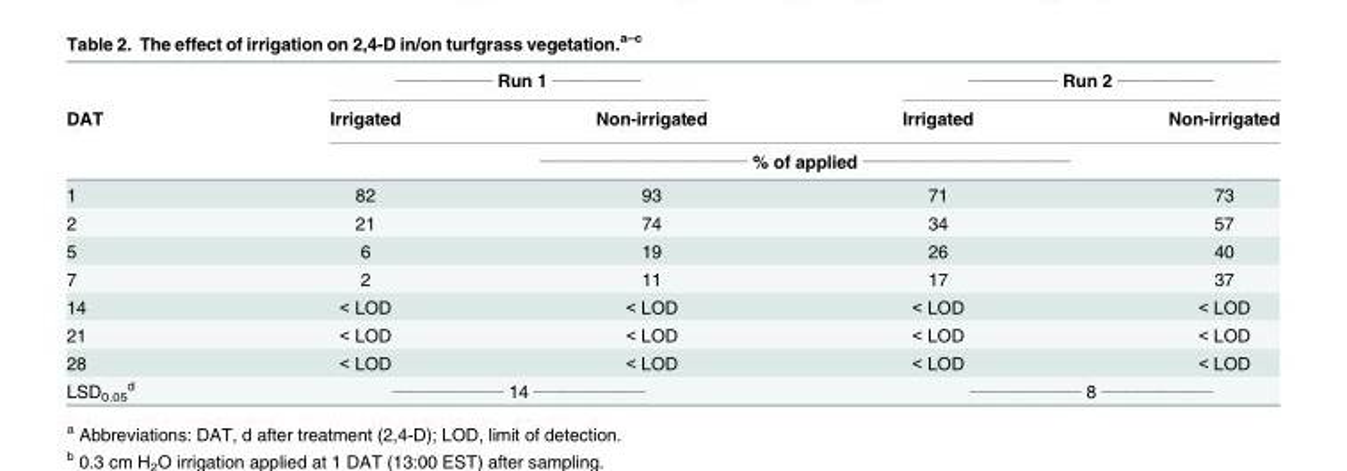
<table><thead><tr><td rowspan="3">DAT</td><td colspan="2"><sup>_____________</sup> Run 1 <sup>____________</sup></td><td colspan="2"><sup>____________</sup> Run 2 <sup>_____________</sup></td></tr><tr><td>Irrigated</td><td>Non-irrigated</td><td>Irrigated</td><td>Non-irrigated</td></tr><tr><td colspan="4">____________________________ % of applied ____________________________</td></tr></thead><tbody><tr><td>1</td><td>82</td><td>93</td><td>71</td><td>73</td></tr><tr><td>2</td><td>21</td><td>74</td><td>34</td><td>57</td></tr><tr><td>5</td><td>6</td><td>19</td><td>26</td><td>40</td></tr><tr><td>7</td><td>2</td><td>11</td><td>17</td><td>37</td></tr><tr><td>14</td><td>&lt; LOD</td><td>&lt; LOD</td><td>&lt; LOD</td><td>&lt; LOD</td></tr><tr><td>21</td><td>&lt; LOD</td><td>&lt; LOD</td><td>&lt; LOD</td><td>&lt; LOD</td></tr><tr><td>28</td><td>&lt; LOD</td><td>&lt; LOD</td><td>&lt; LOD</td><td>&lt; LOD</td></tr><tr><td>LSD<sub>0.05</sub> <sup>d</sup></td><td colspan="2"><sup>_______________</sup> 14 <sup>_______________</sup></td><td colspan="2"><sup>_______________</sup> 8 <sup>_______________</sup></td></tr></tbody></table>